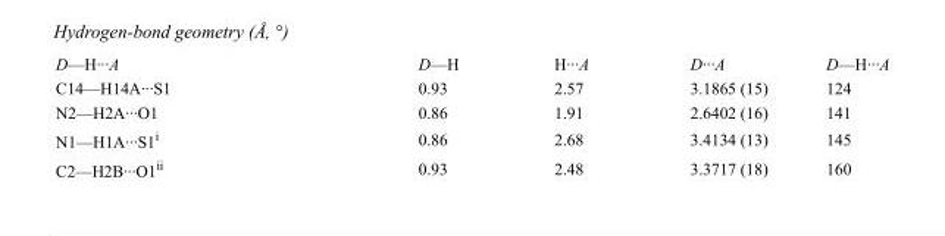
<table><tbody><tr><td>D—H···A</td><td>D—H</td><td>H···A</td><td>D···A</td><td>D—H···A</td></tr><tr><td>C14—H14A···S1</td><td>0.93</td><td>2.57</td><td>3.1865 (15)</td><td>124</td></tr><tr><td>N2—H2A···O1</td><td>0.86</td><td>1.91</td><td>2.6402 (16)</td><td>141</td></tr><tr><td>N1—H1A···S1<sup>i</sup></td><td>0.86</td><td>2.68</td><td>3.4134 (13)</td><td>145</td></tr><tr><td>C2—H2B···O1<sup>ii</sup></td><td>0.93</td><td>2.48</td><td>3.3717 (18)</td><td>160</td></tr></tbody></table>